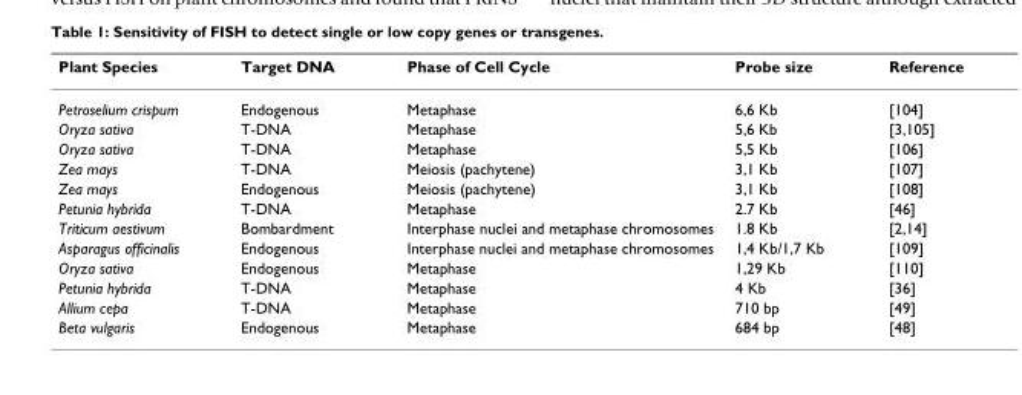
<table><thead><tr><td>Plant Species</td><td>Target DNA</td><td>Phase of Cell Cycle</td><td>Probe size</td><td>Reference</td></tr></thead><tbody><tr><td>Petroselium crispum</td><td>Endogenous</td><td>Metaphase</td><td>6,6 Kb</td><td>[104]</td></tr><tr><td>Oryza sativa</td><td>T-DNA</td><td>Metaphase</td><td>5,6 Kb</td><td>[3,105]</td></tr><tr><td>Oryza sativa</td><td>T-DNA</td><td>Metaphase</td><td>5,5 Kb</td><td>[106]</td></tr><tr><td>Zea mays</td><td>T-DNA</td><td>Meiosis (pachytene)</td><td>3,1 Kb</td><td>[107]</td></tr><tr><td>Zea mays</td><td>Endogenous</td><td>Meiosis (pachytene)</td><td>3,1 Kb</td><td>[108]</td></tr><tr><td>Petunia hybrida</td><td>T-DNA</td><td>Metaphase</td><td>2.7 Kb</td><td>[46]</td></tr><tr><td>Triticum aestivum</td><td>Bombardment</td><td>Interphase nuclei and metaphase chromosomes</td><td>1.8 Kb</td><td>[2,14]</td></tr><tr><td>Asparagus officinalis</td><td>Endogenous</td><td>Interphase nuclei and metaphase chromosomes</td><td>1,4 Kb/1,7 Kb</td><td>[109]</td></tr><tr><td>Oryza sativa</td><td>Endogenous</td><td>Metaphase</td><td>1,29 Kb</td><td>[110]</td></tr><tr><td>Petunia hybrida</td><td>T-DNA</td><td>Metaphase</td><td>4 Kb</td><td>[36]</td></tr><tr><td>Allium cepa</td><td>T-DNA</td><td>Metaphase</td><td>710 bp</td><td>[49]</td></tr><tr><td>Beta vulgaris</td><td>Endogenous</td><td>Metaphase</td><td>684 bp</td><td>[48]</td></tr></tbody></table>